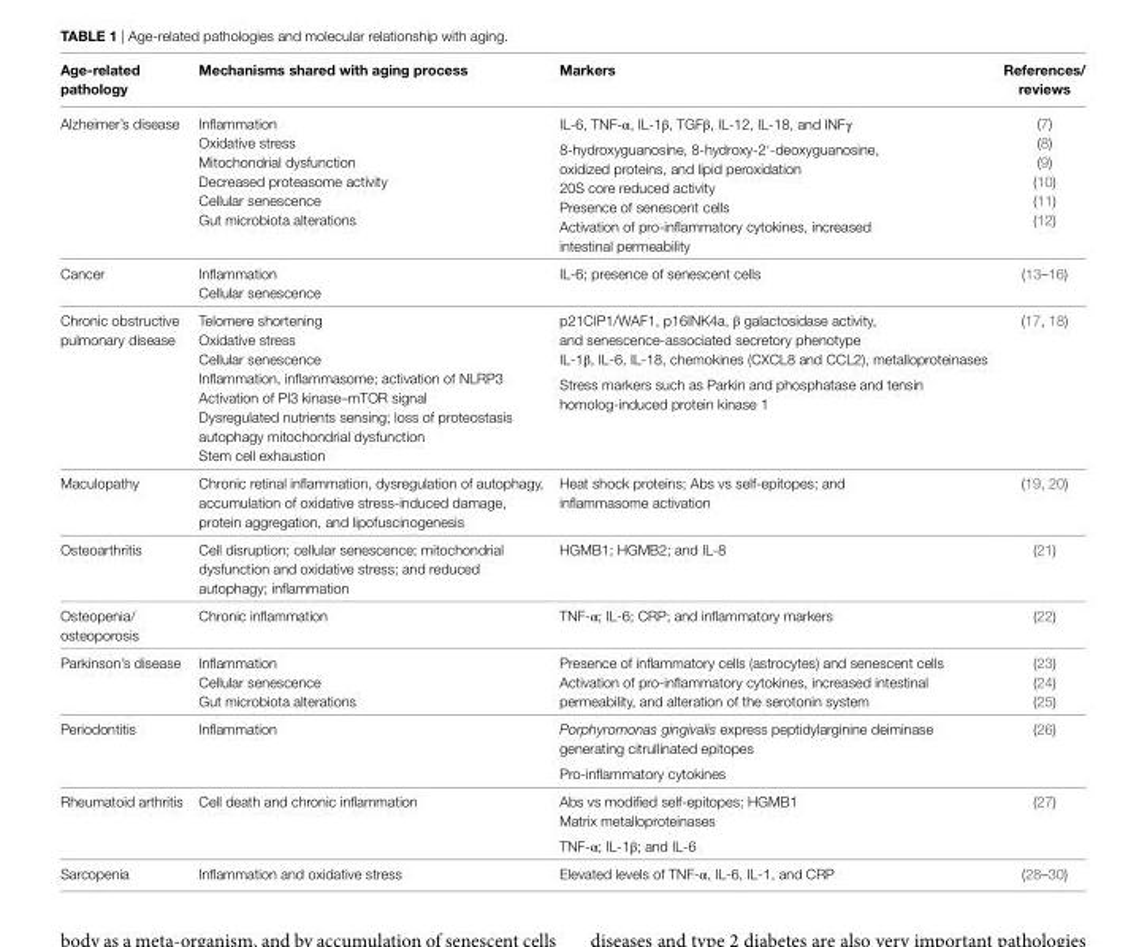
<table><thead><tr><td>Age-related pathology</td><td>Mechanisms shared with aging process</td><td>Markers</td><td>References/ reviews</td></tr></thead><tbody><tr><td>Alzheimer’s disease</td><td>Inflammation Oxidative stress Mitochondrial dysfunction Decreased proteasome activity Cellular senescence Gut microbiota alterations</td><td>IL-6, TNF-α, IL-1β, TGFβ, IL-12, IL-18, and INFγ 8-hydroxyguanosine, 8-hydroxy-2′-deoxyguanosine, oxidized proteins, and lipid peroxidation 20S core reduced activity Presence of senescent cells Activation of pro-inflammatory cytokines, increased intestinal permeability</td><td>(7) (8) (9) (10) (11) (12)</td></tr><tr><td>Cancer</td><td>Inflammation Cellular senescence</td><td>IL-6; presence of senescent cells</td><td>(13–16)</td></tr><tr><td>Chronic obstructive pulmonary disease</td><td>Telomere shortening Oxidative stress Cellular senescence Inflammation, inflammasome; activation of NLRP3 Activation of PI3 kinase–mTOR signal Dysregulated nutrients sensing; loss of proteostasis autophagy mitochondrial dysfunction Stem cell exhaustion</td><td>p21CIP1/WAF1, p16INK4a, β galactosidase activity, and senescence-associated secretory phenotype IL-1β, IL-6, IL-18, chemokines (CXCL8 and CCL2), metalloproteinases Stress markers such as Parkin and phosphatase and tensin homolog-induced protein kinase 1</td><td>(17, 18)</td></tr><tr><td>Maculopathy</td><td>Chronic retinal inflammation, dysregulation of autophagy, accumulation of oxidative stress-induced damage, protein aggregation, and lipofuscinogenesis</td><td>Heat shock proteins; Abs vs self-epitopes; and inflammasome activation</td><td>(19, 20)</td></tr><tr><td>Osteoarthritis</td><td>Cell disruption; cellular senescence; mitochondrial dysfunction and oxidative stress; and reduced autophagy; inflammation</td><td>HGMB1; HGMB2; and IL-8</td><td>(21)</td></tr><tr><td>Osteopenia/ osteoporosis</td><td>Chronic inflammation</td><td>TNF-α; IL-6; CRP; and inflammatory markers</td><td>(22)</td></tr><tr><td>Parkinson’s disease</td><td>Inflammation Cellular senescence Gut microbiota alterations</td><td>Presence of inflammatory cells (astrocytes) and senescent cells Activation of pro-inflammatory cytokines, increased intestinal permeability, and alteration of the serotonin system</td><td>(23) (24) (25)</td></tr><tr><td>Periodontitis</td><td>Inflammation</td><td>Porphyromonas gingivalis express peptidylarginine deiminase generating citrullinated epitopes Pro-inflammatory cytokines</td><td>(26)</td></tr><tr><td>Rheumatoid arthritis</td><td>Cell death and chronic inflammation</td><td>Abs vs modified self-epitopes; HGMB1 Matrix metalloproteinases TNF-α; IL-1β; and IL-6</td><td>(27)</td></tr><tr><td>Sarcopenia</td><td>Inflammation and oxidative stress</td><td>Elevated levels of TNF-α, IL-6, IL-1, and CRP</td><td>(28–30)</td></tr></tbody></table>